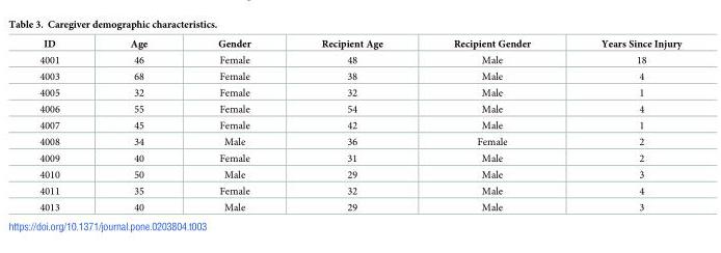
<table><thead><tr><td>ID</td><td>Age</td><td>Gender</td><td>Recipient Age</td><td>Recipient Gender</td><td>Years Since Injury</td></tr></thead><tbody><tr><td>4001</td><td>46</td><td>Female</td><td>48</td><td>Male</td><td>18</td></tr><tr><td>4003</td><td>68</td><td>Female</td><td>38</td><td>Male</td><td>4</td></tr><tr><td>4005</td><td>32</td><td>Female</td><td>32</td><td>Male</td><td>1</td></tr><tr><td>4006</td><td>55</td><td>Female</td><td>54</td><td>Male</td><td>4</td></tr><tr><td>4007</td><td>45</td><td>Female</td><td>42</td><td>Male</td><td>1</td></tr><tr><td>4008</td><td>34</td><td>Male</td><td>36</td><td>Female</td><td>2</td></tr><tr><td>4009</td><td>40</td><td>Female</td><td>31</td><td>Male</td><td>2</td></tr><tr><td>4010</td><td>50</td><td>Male</td><td>29</td><td>Male</td><td>3</td></tr><tr><td>4011</td><td>35</td><td>Female</td><td>32</td><td>Male</td><td>4</td></tr><tr><td>4013</td><td>40</td><td>Male</td><td>29</td><td>Male</td><td>3</td></tr></tbody></table>